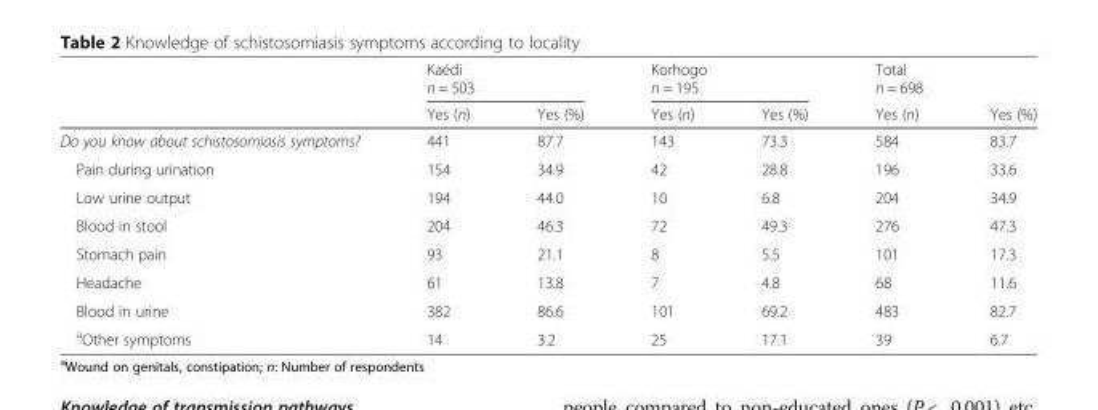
<table><thead><tr><td rowspan="2"></td><td colspan="2">Kaédi n = 503</td><td colspan="2">Korhogo n = 195</td><td rowspan="2">Total n = 698 Yes (n)</td><td rowspan="2">Yes (%)</td></tr><tr><td>Yes (n)</td><td>Yes (%)</td><td>Yes (n)</td><td>Yes (%)</td></tr></thead><tbody><tr><td>Do you know about schistosomiasis symptoms?</td><td>441</td><td>87.7</td><td>143</td><td>73.3</td><td>584</td><td>83.7</td></tr><tr><td>Pain during urination</td><td>154</td><td>34.9</td><td>42</td><td>28.8</td><td>196</td><td>33.6</td></tr><tr><td>Low urine output</td><td>194</td><td>44.0</td><td>10</td><td>6.8</td><td>204</td><td>34.9</td></tr><tr><td>Blood in stool</td><td>204</td><td>46.3</td><td>72</td><td>49.3</td><td>276</td><td>47.3</td></tr><tr><td>Stomach pain</td><td>93</td><td>21.1</td><td>8</td><td>5.5</td><td>101</td><td>17.3</td></tr><tr><td>Headache</td><td>61</td><td>13.8</td><td>7</td><td>4.8</td><td>68</td><td>11.6</td></tr><tr><td>Blood in urine</td><td>382</td><td>86.6</td><td>101</td><td>69.2</td><td>483</td><td>82.7</td></tr><tr><td><sup>a</sup>Other symptoms</td><td>14</td><td>3.2</td><td>25</td><td>17.1</td><td>39</td><td>6.7</td></tr></tbody></table>